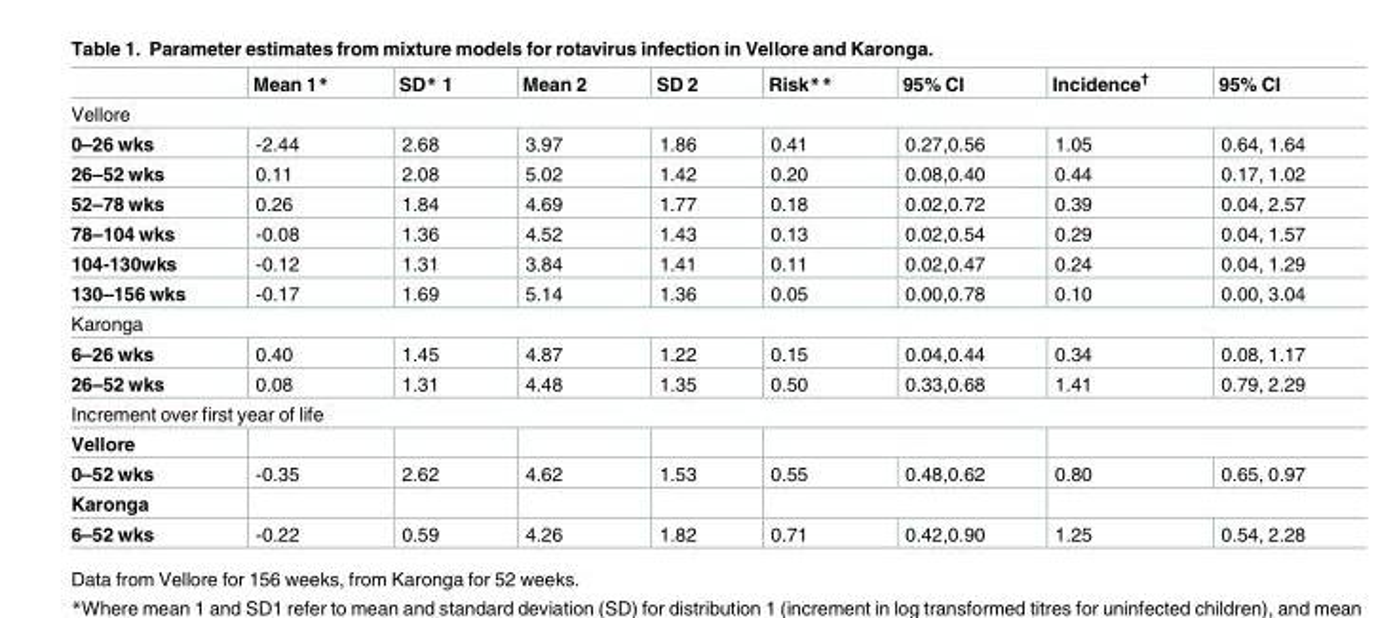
<table><thead><tr><td></td><td>Mean 1*</td><td>SD* 1</td><td>Mean 2</td><td>SD 2</td><td>Risk**</td><td>95% CI</td><td>Incidence†</td><td>95% CI</td></tr></thead><tbody><tr><td colspan="9">Vellore</td></tr><tr><td>0–26 wks</td><td>-2.44</td><td>2.68</td><td>3.97</td><td>1.86</td><td>0.41</td><td>0.27,0.56</td><td>1.05</td><td>0.64, 1.64</td></tr><tr><td>26–52 wks</td><td>0.11</td><td>2.08</td><td>5.02</td><td>1.42</td><td>0.20</td><td>0.08,0.40</td><td>0.44</td><td>0.17, 1.02</td></tr><tr><td>52–78 wks</td><td>0.26</td><td>1.84</td><td>4.69</td><td>1.77</td><td>0.18</td><td>0.02,0.72</td><td>0.39</td><td>0.04, 2.57</td></tr><tr><td>78–104 wks</td><td>-0.08</td><td>1.36</td><td>4.52</td><td>1.43</td><td>0.13</td><td>0.02,0.54</td><td>0.29</td><td>0.04, 1.57</td></tr><tr><td>104-130wks</td><td>-0.12</td><td>1.31</td><td>3.84</td><td>1.41</td><td>0.11</td><td>0.02,0.47</td><td>0.24</td><td>0.04, 1.29</td></tr><tr><td>130–156 wks</td><td>-0.17</td><td>1.69</td><td>5.14</td><td>1.36</td><td>0.05</td><td>0.00,0.78</td><td>0.10</td><td>0.00, 3.04</td></tr><tr><td colspan="9">Karonga</td></tr><tr><td>6–26 wks</td><td>0.40</td><td>1.45</td><td>4.87</td><td>1.22</td><td>0.15</td><td>0.04,0.44</td><td>0.34</td><td>0.08, 1.17</td></tr><tr><td>26–52 wks</td><td>0.08</td><td>1.31</td><td>4.48</td><td>1.35</td><td>0.50</td><td>0.33,0.68</td><td>1.41</td><td>0.79, 2.29</td></tr><tr><td colspan="9">Increment over first year of life</td></tr><tr><td colspan="9">Vellore</td></tr><tr><td>0–52 wks</td><td>-0.35</td><td>2.62</td><td>4.62</td><td>1.53</td><td>0.55</td><td>0.48,0.62</td><td>0.80</td><td>0.65, 0.97</td></tr><tr><td colspan="9">Karonga</td></tr><tr><td>6–52 wks</td><td>-0.22</td><td>0.59</td><td>4.26</td><td>1.82</td><td>0.71</td><td>0.42,0.90</td><td>1.25</td><td>0.54, 2.28</td></tr></tbody></table>